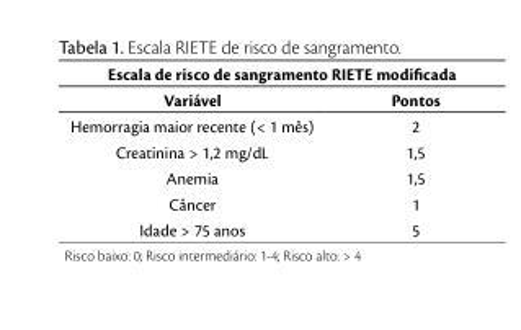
<table><thead><tr><td colspan="2">Escala de risco de sangramento RIETE modificada</td></tr><tr><td>Variável</td><td>Pontos</td></tr></thead><tbody><tr><td>Hemorragia maior recente (&lt; 1 mês)</td><td>2</td></tr><tr><td>Creatinina &gt; 1,2 mg/dL</td><td>1,5</td></tr><tr><td>Anemia</td><td>1,5</td></tr><tr><td>Câncer</td><td>1</td></tr><tr><td>Idade &gt; 75 anos</td><td>5</td></tr><tr><td colspan="2">Risco baixo: 0; Risco intermediário: 1-4; Risco alto: &gt; 4</td></tr></tbody></table>